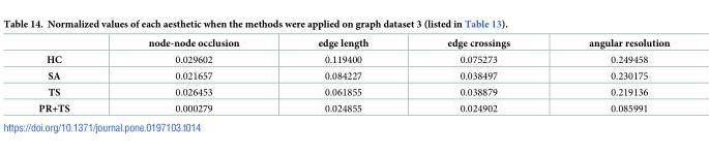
<table><thead><tr><td></td><td>node-node occlusion</td><td>edge length</td><td>edge crossings</td><td>angular resolution</td></tr></thead><tbody><tr><td>HC</td><td>0.029602</td><td>0.119400</td><td>0.075273</td><td>0.249458</td></tr><tr><td>SA</td><td>0.021657</td><td>0.084227</td><td>0.038497</td><td>0.230175</td></tr><tr><td>TS</td><td>0.026453</td><td>0.061855</td><td>0.038879</td><td>0.219136</td></tr><tr><td>PR+TS</td><td>0.000279</td><td>0.024855</td><td>0.024902</td><td>0.085991</td></tr></tbody></table>